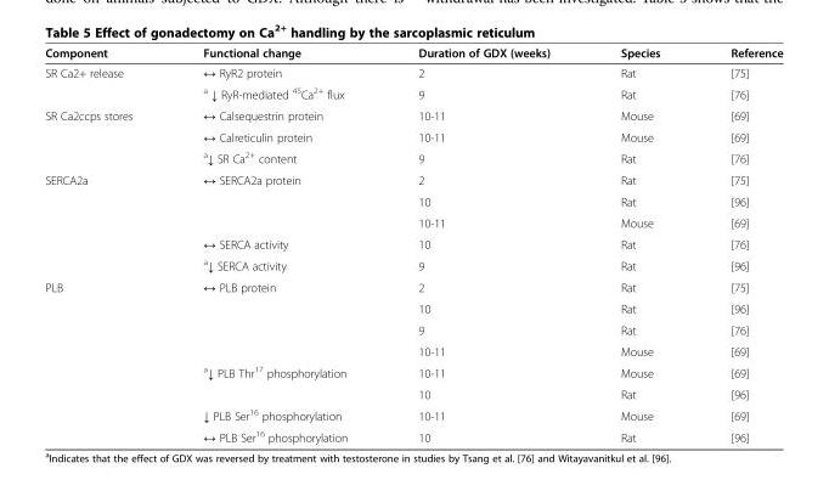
<table><thead><tr><td>Component</td><td>Functional change</td><td>Duration of GDX (weeks)</td><td>Species</td><td>Reference</td></tr></thead><tbody><tr><td rowspan="2">SR Ca2+ release</td><td>↔ RyR2 protein</td><td>2</td><td>Rat</td><td>[75]</td></tr><tr><td><sup>a</sup> ↓ RyR-mediated <sup>45</sup>Ca<sup>2+</sup> flux</td><td>9</td><td>Rat</td><td>[76]</td></tr><tr><td rowspan="3">SR Ca2ccps stores</td><td>↔ Calsequestrin protein</td><td>10-11</td><td>Mouse</td><td>[69]</td></tr><tr><td>↔ Calreticulin protein</td><td>10-11</td><td>Mouse</td><td>[69]</td></tr><tr><td><sup>a</sup>↓ SR Ca<sup>2+</sup> content</td><td>9</td><td>Rat</td><td>[76]</td></tr><tr><td rowspan="5">SERCA2a</td><td rowspan="3">↔ SERCA2a protein</td><td>2</td><td>Rat</td><td>[75]</td></tr><tr><td>10</td><td>Rat</td><td>[96]</td></tr><tr><td>10-11</td><td>Mouse</td><td>[69]</td></tr><tr><td>↔ SERCA activity</td><td>10</td><td>Rat</td><td>[76]</td></tr><tr><td><sup>a</sup>↓ SERCA activity</td><td>9</td><td>Rat</td><td>[96]</td></tr><tr><td rowspan="8">PLB</td><td rowspan="4">↔ PLB protein</td><td>2</td><td>Rat</td><td>[75]</td></tr><tr><td>10</td><td>Rat</td><td>[96]</td></tr><tr><td>9</td><td>Rat</td><td>[76]</td></tr><tr><td>10-11</td><td>Mouse</td><td>[69]</td></tr><tr><td><sup>a</sup>↓ PLB Thr<sup>17</sup> phosphorylation</td><td>10-11</td><td>Mouse</td><td>[69]</td></tr><tr><td></td><td>10</td><td>Rat</td><td>[96]</td></tr><tr><td>↓ PLB Ser<sup>16</sup> phosphorylation</td><td>10-11</td><td>Mouse</td><td>[69]</td></tr><tr><td>↔ PLB Ser<sup>16</sup> phosphorylation</td><td>10</td><td>Rat</td><td>[96]</td></tr></tbody></table>